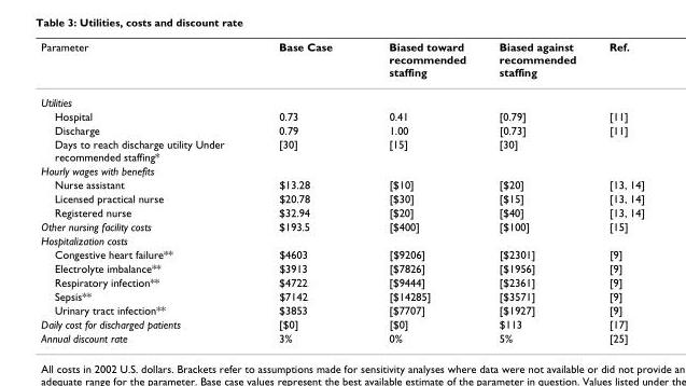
<table><thead><tr><td>Parameter</td><td>Base Case</td><td>Biased toward recommended staffing</td><td>Biased against recommended staffing</td><td>Ref.</td></tr></thead><tbody><tr><td colspan="5">Utilities</td></tr><tr><td>Hospital</td><td>0.73</td><td>0.41</td><td>[0.79]</td><td>[11]</td></tr><tr><td>Discharge</td><td>0.79</td><td>1.00</td><td>[0.73]</td><td>[11]</td></tr><tr><td>Days to reach discharge utility Under recommended staffing*</td><td>[30]</td><td>[15]</td><td>[30]</td><td></td></tr><tr><td colspan="5">Hourly wages with benefits</td></tr><tr><td>Nurse assistant</td><td>$13.28</td><td>[$10]</td><td>[$20]</td><td>[13, 14]</td></tr><tr><td>Licensed practical nurse</td><td>$20.78</td><td>[$30]</td><td>[$15]</td><td>[13, 14]</td></tr><tr><td>Registered nurse</td><td>$32.94</td><td>[$20]</td><td>[$40]</td><td>[13, 14]</td></tr><tr><td>Other nursing facility costs</td><td>$193.5</td><td>[$400]</td><td>[$100]</td><td>[15]</td></tr><tr><td colspan="5">Hospitalization costs</td></tr><tr><td>Congestive heart failure**</td><td>$4603</td><td>[$9206]</td><td>[$2301]</td><td>[9]</td></tr><tr><td>Electrolyte imbalance**</td><td>$3913</td><td>[$7826]</td><td>[$1956]</td><td>[9]</td></tr><tr><td>Respiratory infection**</td><td>$4722</td><td>[$9444]</td><td>[$2361]</td><td>[9]</td></tr><tr><td>Sepsis**</td><td>$7142</td><td>[$14285]</td><td>[$3571]</td><td>[9]</td></tr><tr><td>Urinary tract infection**</td><td>$3853</td><td>[$7707]</td><td>[$1927]</td><td>[9]</td></tr><tr><td>Daily cost for discharged patients</td><td>[$0]</td><td>[$0]</td><td>$113</td><td>[17]</td></tr><tr><td>Annual discount rate</td><td>3%</td><td>0%</td><td>5%</td><td>[25]</td></tr></tbody></table>